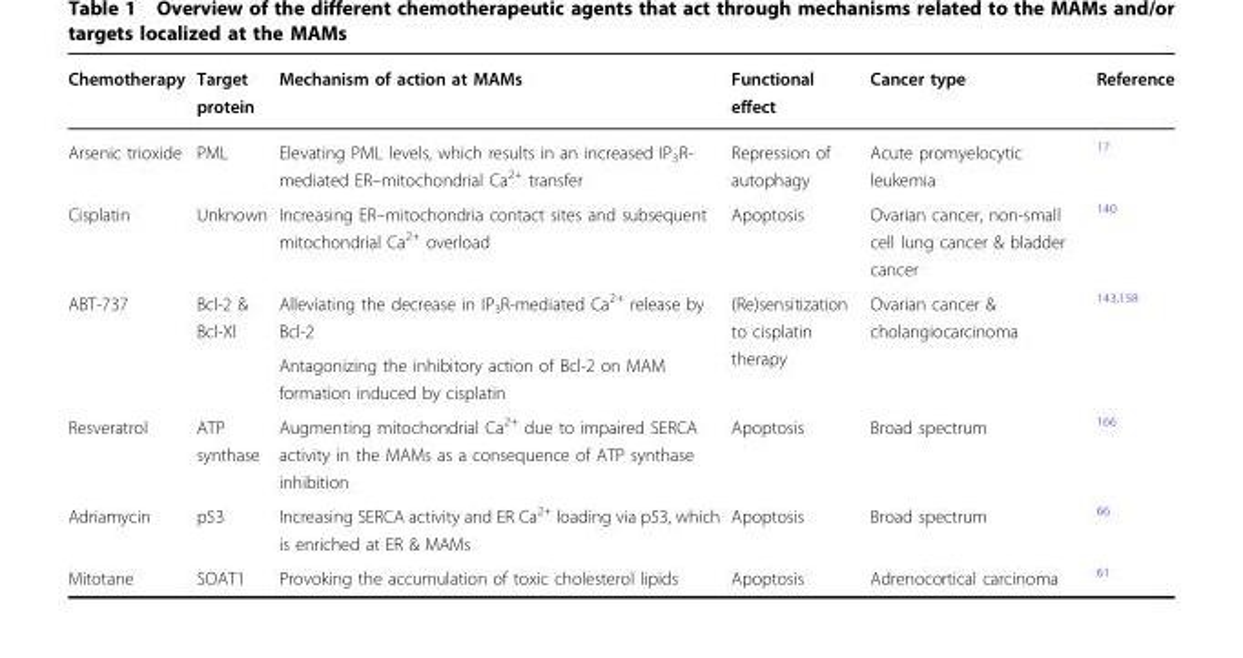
<table><thead><tr><td>Chemotherapy</td><td>Target protein</td><td>Mechanism of action at MAMs</td><td>Functional effect</td><td>Cancer type</td><td>Reference</td></tr></thead><tbody><tr><td>Arsenic trioxide</td><td>PML</td><td>Elevating PML levels, which results in an increased IP<sub>3</sub>R- mediated ER–mitochondrial Ca<sup>2+</sup> transfer</td><td>Repression of autophagy</td><td>Acute promyelocytic leukemia</td><td><sup>17</sup></td></tr><tr><td>Cisplatin</td><td>Unknown</td><td>Increasing ER–mitochondria contact sites and subsequent mitochondrial Ca<sup>2+</sup> overload</td><td>Apoptosis</td><td>Ovarian cancer, non-small cell lung cancer &amp; bladder cancer</td><td><sup>140</sup></td></tr><tr><td rowspan="2">ABT-737</td><td rowspan="2">Bcl-2 &amp; Bcl-Xl</td><td>Alleviating the decrease in IP<sub>3</sub>R-mediated Ca<sup>2+</sup> release by Bcl-2</td><td rowspan="2">(Re)sensitization to cisplatin therapy</td><td rowspan="2">Ovarian cancer &amp; cholangiocarcinoma</td><td rowspan="2"><sup>143,158</sup></td></tr><tr><td>Antagonizing the inhibitory action of Bcl-2 on MAM formation induced by cisplatin</td></tr><tr><td>Resveratrol</td><td>ATP synthase</td><td>Augmenting mitochondrial Ca<sup>2+</sup> due to impaired SERCA activity in the MAMs as a consequence of ATP synthase inhibition</td><td>Apoptosis</td><td>Broad spectrum</td><td><sup>166</sup></td></tr><tr><td>Adriamycin</td><td>p53</td><td>Increasing SERCA activity and ER Ca<sup>2+</sup> loading via p53, which is enriched at ER &amp; MAMs</td><td>Apoptosis</td><td>Broad spectrum</td><td><sup>66</sup></td></tr><tr><td>Mitotane</td><td>SOAT1</td><td>Provoking the accumulation of toxic cholesterol lipids</td><td>Apoptosis</td><td>Adrenocortical carcinoma</td><td><sup>61</sup></td></tr></tbody></table>